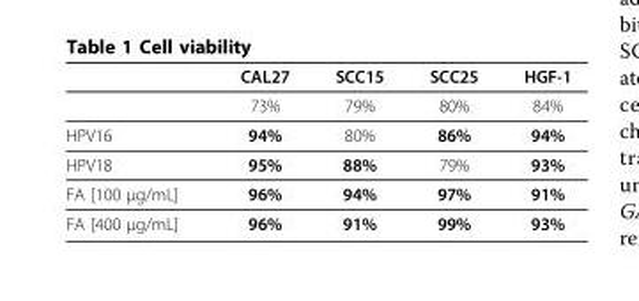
<table><thead><tr><td></td><td>CAL27</td><td>SCC15</td><td>SCC25</td><td>HGF-1</td></tr></thead><tbody><tr><td></td><td>73%</td><td>79%</td><td>80%</td><td>84%</td></tr><tr><td>HPV16</td><td>94%</td><td>80%</td><td>86%</td><td>94%</td></tr><tr><td>HPV18</td><td>95%</td><td>88%</td><td>79%</td><td>93%</td></tr><tr><td>FA [100 μg/mL]</td><td>96%</td><td>94%</td><td>97%</td><td>91%</td></tr><tr><td>FA [400 μg/mL]</td><td>96%</td><td>91%</td><td>99%</td><td>93%</td></tr></tbody></table>